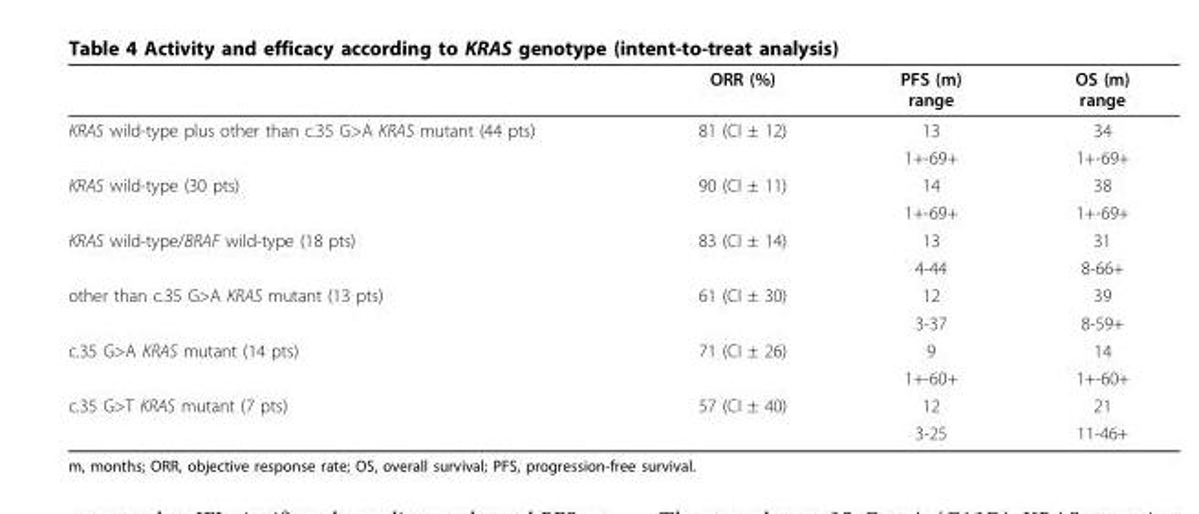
<table><thead><tr><td></td><td>ORR (%)</td><td>PFS (m) range</td><td>OS (m) range</td></tr></thead><tbody><tr><td rowspan="2">KRAS wild-type plus other than c.35 G&gt;A KRAS mutant (44 pts)</td><td>81 (CI ± 12)</td><td>13</td><td>34</td></tr><tr><td></td><td>1+-69+</td><td>1+-69+</td></tr><tr><td rowspan="2">KRAS wild-type (30 pts)</td><td>90 (CI ± 11)</td><td>14</td><td>38</td></tr><tr><td></td><td>1+-69+</td><td>1+-69+</td></tr><tr><td rowspan="2">KRAS wild-type/BRAF wild-type (18 pts)</td><td>83 (CI ± 14)</td><td>13</td><td>31</td></tr><tr><td></td><td>4-44</td><td>8-66+</td></tr><tr><td rowspan="2">other than c.35 G&gt;A KRAS mutant (13 pts)</td><td>61 (CI ± 30)</td><td>12</td><td>39</td></tr><tr><td></td><td>3-37</td><td>8-59+</td></tr><tr><td rowspan="2">c.35 G&gt;A KRAS mutant (14 pts)</td><td>71 (CI ± 26)</td><td>9</td><td>14</td></tr><tr><td></td><td>1+-60+</td><td>1+-60+</td></tr><tr><td rowspan="2">c.35 G&gt;T KRAS mutant (7 pts)</td><td>57 (CI ± 40)</td><td>12</td><td>21</td></tr><tr><td></td><td>3-25</td><td>11-46+</td></tr></tbody></table>